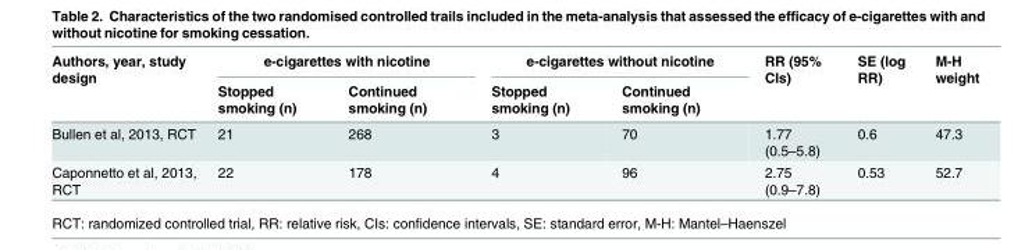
<table><thead><tr><td rowspan="2">Authors, year, study design</td><td colspan="2">e-cigarettes with nicotine</td><td colspan="2">e-cigarettes without nicotine</td><td rowspan="2">RR (95% CIs)</td><td rowspan="2">SE (log RR)</td><td rowspan="2">M-H weight</td></tr><tr><td>Stopped smoking (n)</td><td>Continued smoking (n)</td><td>Stopped smoking (n)</td><td>Continued smoking (n)</td></tr></thead><tbody><tr><td>Bullen et al, 2013, RCT</td><td>21</td><td>268</td><td>3</td><td>70</td><td>1.77 (0.5–5.8)</td><td>0.6</td><td>47.3</td></tr><tr><td>Caponnetto et al, 2013, RCT</td><td>22</td><td>178</td><td>4</td><td>96</td><td>2.75 (0.9–7.8)</td><td>0.53</td><td>52.7</td></tr></tbody></table>